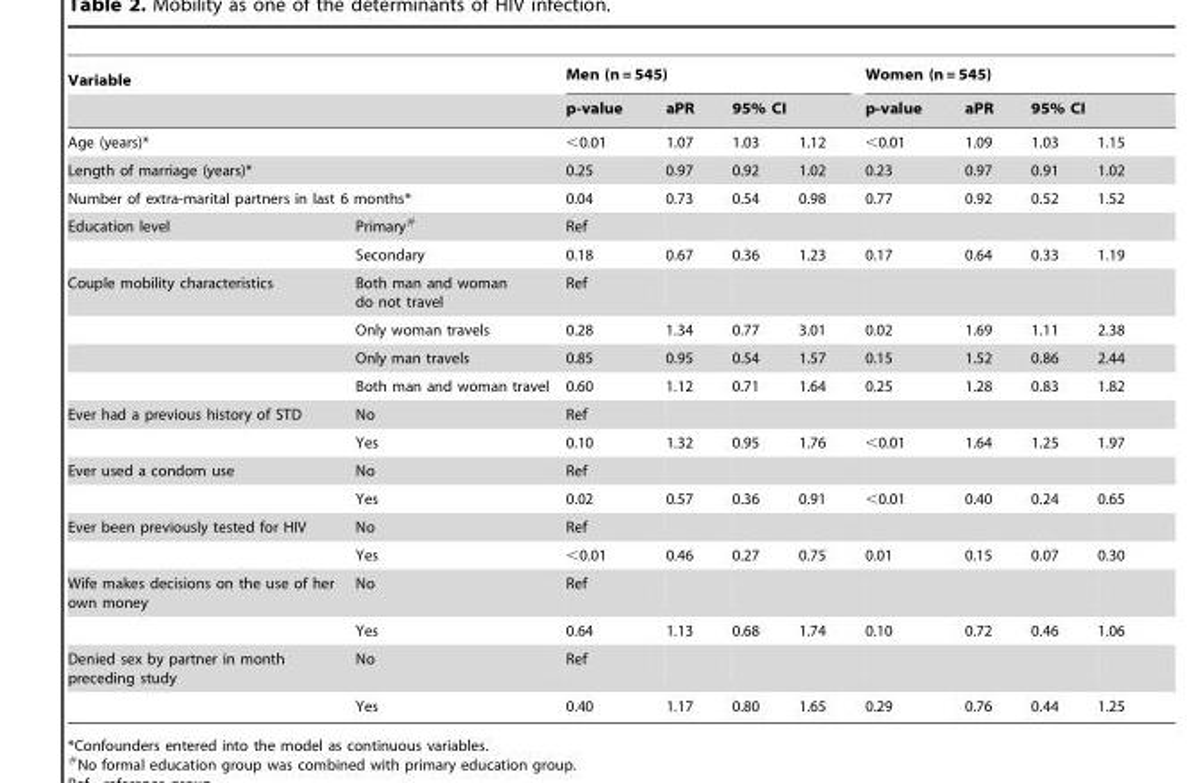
<table><thead><tr><td colspan="2">Variable</td><td colspan="4">Men (n = 545)</td><td colspan="4">Women (n = 545)</td></tr><tr><td></td><td></td><td rowspan="2">p-value &lt;0.01</td><td rowspan="2">aPR 1.07</td><td colspan="2">95% CI</td><td rowspan="2">p-value &lt;0.01</td><td rowspan="2">aPR 1.09</td><td colspan="2">95% CI</td></tr><tr><td colspan="2">Age (years)*</td><td>1.03</td><td>1.12</td><td>1.03</td><td>1.15</td></tr></thead><tbody><tr><td colspan="2">Length of marriage (years)*</td><td>0.25</td><td>0.97</td><td>0.92</td><td>1.02</td><td>0.23</td><td>0.97</td><td>0.91</td><td>1.02</td></tr><tr><td colspan="2">Number of extra-marital partners in last 6 months*</td><td>0.04</td><td>0.73</td><td>0.54</td><td>0.98</td><td>0.77</td><td>0.92</td><td>0.52</td><td>1.52</td></tr><tr><td rowspan="2">Education level</td><td>Primary#</td><td>Ref</td><td></td><td></td><td></td><td></td><td></td><td></td><td></td></tr><tr><td>Secondary</td><td>0.18</td><td>0.67</td><td>0.36</td><td>1.23</td><td>0.17</td><td>0.64</td><td>0.33</td><td>1.19</td></tr><tr><td rowspan="4">Couple mobility characteristics</td><td>Both man and woman do not travel</td><td>Ref</td><td></td><td></td><td></td><td></td><td></td><td></td><td></td></tr><tr><td>Only woman travels</td><td>0.28</td><td>1.34</td><td>0.77</td><td>3.01</td><td>0.02</td><td>1.69</td><td>1.11</td><td>2.38</td></tr><tr><td>Only man travels</td><td>0.85</td><td>0.95</td><td>0.54</td><td>1.57</td><td>0.15</td><td>1.52</td><td>0.86</td><td>2.44</td></tr><tr><td>Both man and woman travel</td><td>0.60</td><td>1.12</td><td>0.71</td><td>1.64</td><td>0.25</td><td>1.28</td><td>0.83</td><td>1.82</td></tr><tr><td rowspan="2">Ever had a previous history of STD</td><td>No</td><td>Ref</td><td></td><td></td><td></td><td></td><td></td><td></td><td></td></tr><tr><td>Yes</td><td>0.10</td><td>1.32</td><td>0.95</td><td>1.76</td><td>&lt;0.01</td><td>1.64</td><td>1.25</td><td>1.97</td></tr><tr><td rowspan="2">Ever used a condom use</td><td>No</td><td>Ref</td><td></td><td></td><td></td><td></td><td></td><td></td><td></td></tr><tr><td>Yes</td><td>0.02</td><td>0.57</td><td>0.36</td><td>0.91</td><td>&lt;0.01</td><td>0.40</td><td>0.24</td><td>0.65</td></tr><tr><td rowspan="2">Ever been previously tested for HIV</td><td>No</td><td>Ref</td><td></td><td></td><td></td><td></td><td></td><td></td><td></td></tr><tr><td>Yes</td><td>&lt;0.01</td><td>0.46</td><td>0.27</td><td>0.75</td><td>0.01</td><td>0.15</td><td>0.07</td><td>0.30</td></tr><tr><td rowspan="2">Wife makes decisions on the use of her own money</td><td>No</td><td>Ref</td><td></td><td></td><td></td><td></td><td></td><td></td><td></td></tr><tr><td>Yes</td><td>0.64</td><td>1.13</td><td>0.68</td><td>1.74</td><td>0.10</td><td>0.72</td><td>0.46</td><td>1.06</td></tr><tr><td rowspan="2">Denied sex by partner in month preceding study</td><td>No</td><td>Ref</td><td></td><td></td><td></td><td></td><td></td><td></td><td></td></tr><tr><td>Yes</td><td>0.40</td><td>1.17</td><td>0.80</td><td>1.65</td><td>0.29</td><td>0.76</td><td>0.44</td><td>1.25</td></tr></tbody></table>